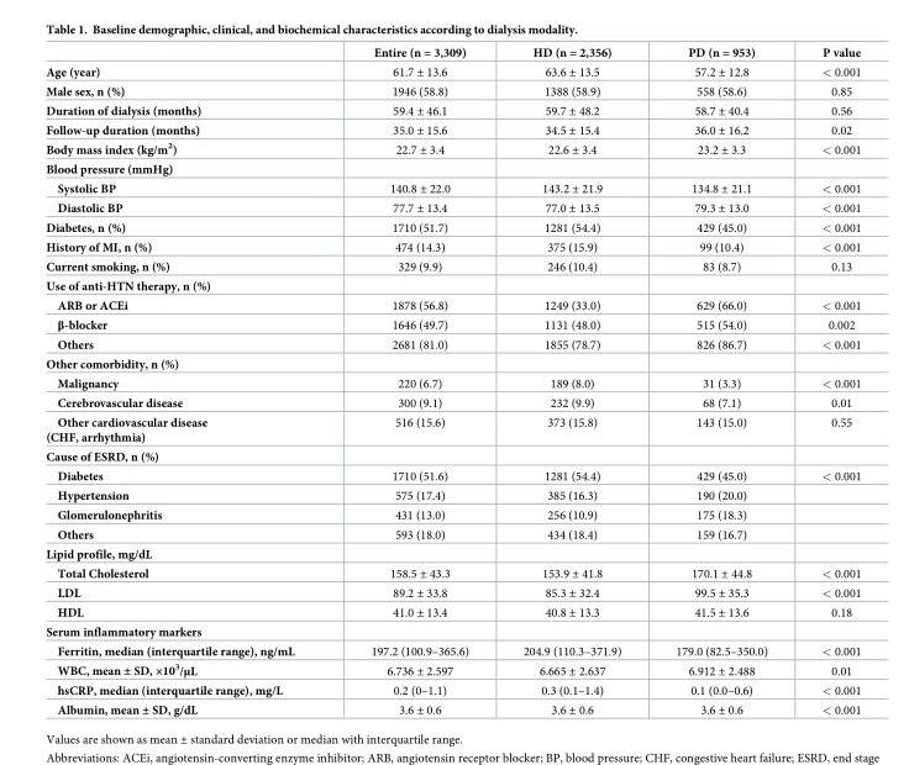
<table><thead><tr><td></td><td>Entire (n = 3,309)</td><td>HD (n = 2,356)</td><td>PD (n = 953)</td><td>P value</td></tr></thead><tbody><tr><td>Age (year)</td><td>61.7 ± 13.6</td><td>63.6 ± 13.5</td><td>57.2 ± 12.8</td><td>&lt; 0.001</td></tr><tr><td>Male sex, n (%)</td><td>1946 (58.8)</td><td>1388 (58.9)</td><td>558 (58.6)</td><td>0.85</td></tr><tr><td>Duration of dialysis (months)</td><td>59.4 ± 46.1</td><td>59.7 ± 48.2</td><td>58.7 ± 40.4</td><td>0.56</td></tr><tr><td>Follow-up duration (months)</td><td>35.0 ± 15.6</td><td>34.5 ± 15.4</td><td>36.0 ± 16.2</td><td>0.02</td></tr><tr><td>Body mass index (kg/m<sup>2</sup>)</td><td>22.7 ± 3.4</td><td>22.6 ± 3.4</td><td>23.2 ± 3.3</td><td>&lt; 0.001</td></tr><tr><td colspan="5">Blood pressure (mmHg)</td></tr><tr><td>Systolic BP</td><td>140.8 ± 22.0</td><td>143.2 ± 21.9</td><td>134.8 ± 21.1</td><td>&lt; 0.001</td></tr><tr><td>Diastolic BP</td><td>77.7 ± 13.4</td><td>77.0 ± 13.5</td><td>79.3 ± 13.0</td><td>&lt; 0.001</td></tr><tr><td>Diabetes, n (%)</td><td>1710 (51.7)</td><td>1281 (54.4)</td><td>429 (45.0)</td><td>&lt; 0.001</td></tr><tr><td>History of MI, n (%)</td><td>474 (14.3)</td><td>375 (15.9)</td><td>99 (10.4)</td><td>&lt; 0.001</td></tr><tr><td>Current smoking, n (%)</td><td>329 (9.9)</td><td>246 (10.4)</td><td>83 (8.7)</td><td>0.13</td></tr><tr><td colspan="5">Use of anti-HTN therapy, n (%)</td></tr><tr><td>ARB or ACEi</td><td>1878 (56.8)</td><td>1249 (33.0)</td><td>629 (66.0)</td><td>&lt; 0.001</td></tr><tr><td>β-blocker</td><td>1646 (49.7)</td><td>1131 (48.0)</td><td>515 (54.0)</td><td>0.002</td></tr><tr><td>Others</td><td>2681 (81.0)</td><td>1855 (78.7)</td><td>826 (86.7)</td><td>&lt; 0.001</td></tr><tr><td colspan="5">Other comorbidity, n (%)</td></tr><tr><td>Malignancy</td><td>220 (6.7)</td><td>189 (8.0)</td><td>31 (3.3)</td><td>&lt; 0.001</td></tr><tr><td>Cerebrovascular disease</td><td>300 (9.1)</td><td>232 (9.9)</td><td>68 (7.1)</td><td>0.01</td></tr><tr><td>Other cardiovascular disease (CHF, arrhythmia)</td><td>516 (15.6)</td><td>373 (15.8)</td><td>143 (15.0)</td><td>0.55</td></tr><tr><td colspan="5">Cause of ESRD, n (%)</td></tr><tr><td>Diabetes</td><td>1710 (51.6)</td><td>1281 (54.4)</td><td>429 (45.0)</td><td>&lt; 0.001</td></tr><tr><td>Hypertension</td><td>575 (17.4)</td><td>385 (16.3)</td><td>190 (20.0)</td><td></td></tr><tr><td>Glomerulonephritis</td><td>431 (13.0)</td><td>256 (10.9)</td><td>175 (18.3)</td><td></td></tr><tr><td>Others</td><td>593 (18.0)</td><td>434 (18.4)</td><td>159 (16.7)</td><td></td></tr><tr><td colspan="5">Lipid profile, mg/dL</td></tr><tr><td>Total Cholesterol</td><td>158.5 ± 43.3</td><td>153.9 ± 41.8</td><td>170.1 ± 44.8</td><td>&lt; 0.001</td></tr><tr><td>LDL</td><td>89.2 ± 33.8</td><td>85.3 ± 32.4</td><td>99.5 ± 35.3</td><td>&lt; 0.001</td></tr><tr><td>HDL</td><td>41.0 ± 13.4</td><td>40.8 ± 13.3</td><td>41.5 ± 13.6</td><td>0.18</td></tr><tr><td colspan="5">Serum inflammatory markers</td></tr><tr><td>Ferritin, median (interquartile range), ng/mL</td><td>197.2 (100.9–365.6)</td><td>204.9 (110.3–371.9)</td><td>179.0 (82.5–350.0)</td><td>&lt; 0.001</td></tr><tr><td>WBC, mean ± SD, ×10<sup>3</sup>/μL</td><td>6.736 ± 2.597</td><td>6.665 ± 2.637</td><td>6.912 ± 2.488</td><td>0.01</td></tr><tr><td>hsCRP, median (interquartile range), mg/L</td><td>0.2 (0–1.1)</td><td>0.3 (0.1–1.4)</td><td>0.1 (0.0–0.6)</td><td>&lt; 0.001</td></tr><tr><td>Albumin, mean ± SD, g/dL</td><td>3.6 ± 0.6</td><td>3.6 ± 0.6</td><td>3.6 ± 0.6</td><td>&lt; 0.001</td></tr></tbody></table>